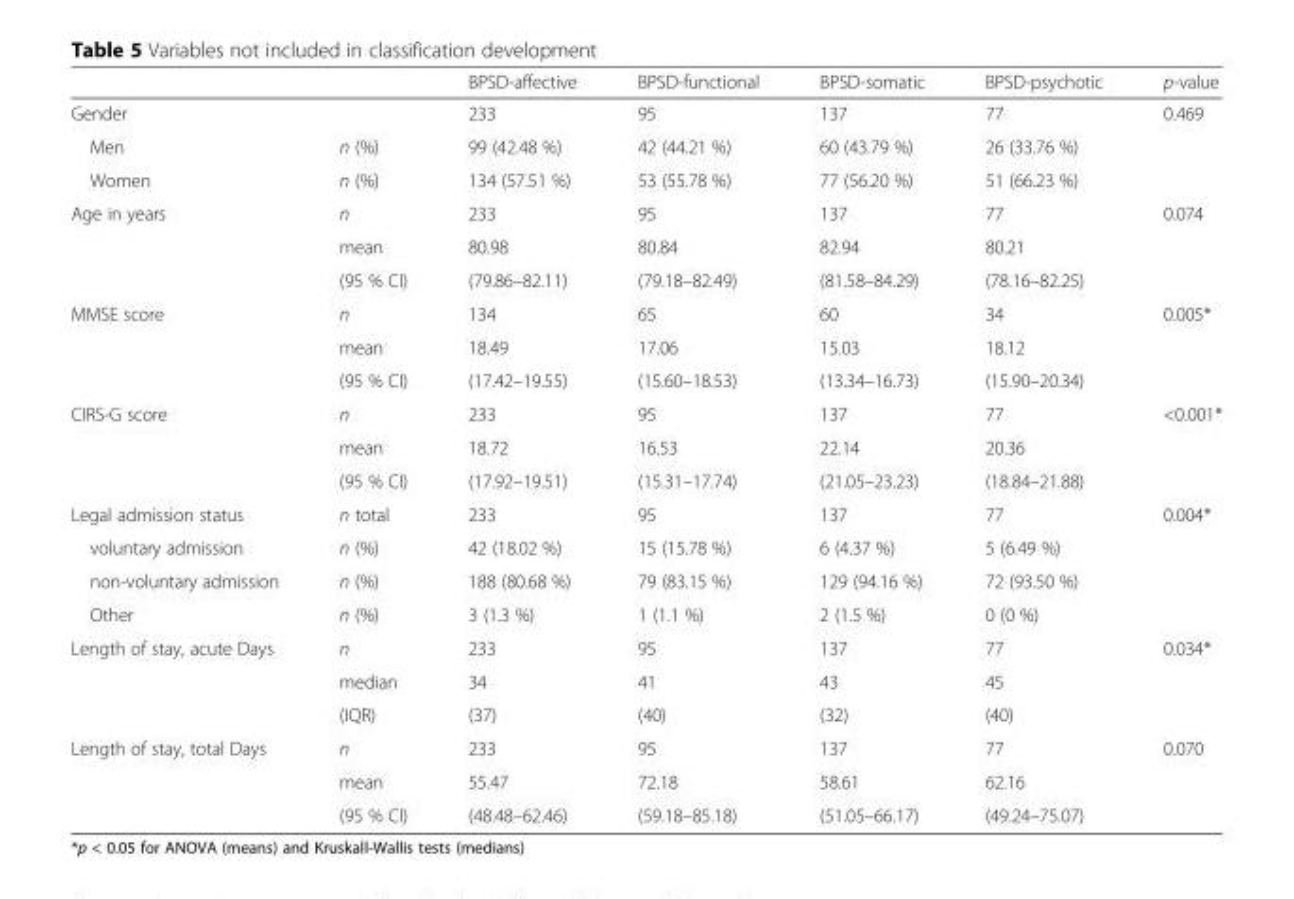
<table><thead><tr><td></td><td></td><td>BPSD-affective</td><td>BPSD-functional</td><td>BPSD-somatic</td><td>BPSD-psychotic</td><td>p-value</td></tr></thead><tbody><tr><td>Gender</td><td></td><td>233</td><td>95</td><td>137</td><td>77</td><td>0.469</td></tr><tr><td>Men</td><td>n (%)</td><td>99 (42.48 %)</td><td>42 (44.21 %)</td><td>60 (43.79 %)</td><td>26 (33.76 %)</td><td></td></tr><tr><td>Women</td><td>n (%)</td><td>134 (57.51 %)</td><td>53 (55.78 %)</td><td>77 (56.20 %)</td><td>51 (66.23 %)</td><td></td></tr><tr><td rowspan="3">Age in years</td><td>n</td><td>233</td><td>95</td><td>137</td><td>77</td><td rowspan="3">0.074</td></tr><tr><td>mean</td><td>80.98</td><td>80.84</td><td>82.94</td><td>80.21</td></tr><tr><td>(95 % CI)</td><td>(79.86–82.11)</td><td>(79.18–82.49)</td><td>(81.58–84.29)</td><td>(78.16–82.25)</td></tr><tr><td rowspan="3">MMSE score</td><td>n</td><td>134</td><td>65</td><td>60</td><td>34</td><td rowspan="3">0.005*</td></tr><tr><td>mean</td><td>18.49</td><td>17.06</td><td>15.03</td><td>18.12</td></tr><tr><td>(95 % CI)</td><td>(17.42–19.55)</td><td>(15.60–18.53)</td><td>(13.34–16.73)</td><td>(15.90–20.34)</td></tr><tr><td rowspan="3">CIRS-G score</td><td>n</td><td>233</td><td>95</td><td>137</td><td>77</td><td rowspan="3">&lt;0.001*</td></tr><tr><td>mean</td><td>18.72</td><td>16.53</td><td>22.14</td><td>20.36</td></tr><tr><td>(95 % CI)</td><td>(17.92–19.51)</td><td>(15.31–17.74)</td><td>(21.05–23.23)</td><td>(18.84–21.88)</td></tr><tr><td>Legal admission status</td><td>n total</td><td>233</td><td>95</td><td>137</td><td>77</td><td>0.004*</td></tr><tr><td>voluntary admission</td><td>n (%)</td><td>42 (18.02 %)</td><td>15 (15.78 %)</td><td>6 (4.37 %)</td><td>5 (6.49 %)</td><td></td></tr><tr><td>non-voluntary admission</td><td>n (%)</td><td>188 (80.68 %)</td><td>79 (83.15 %)</td><td>129 (94.16 %)</td><td>72 (93.50 %)</td><td></td></tr><tr><td>Other</td><td>n (%)</td><td>3 (1.3 %)</td><td>1 (1.1 %)</td><td>2 (1.5 %)</td><td>0 (0 %)</td><td></td></tr><tr><td rowspan="3">Length of stay, acute Days</td><td>n</td><td>233</td><td>95</td><td>137</td><td>77</td><td rowspan="3">0.034*</td></tr><tr><td>median</td><td>34</td><td>41</td><td>43</td><td>45</td></tr><tr><td>(IQR)</td><td>(37)</td><td>(40)</td><td>(32)</td><td>(40)</td></tr><tr><td rowspan="3">Length of stay, total Days</td><td>n</td><td>233</td><td>95</td><td>137</td><td>77</td><td rowspan="3">0.070</td></tr><tr><td>mean</td><td>55.47</td><td>72.18</td><td>58.61</td><td>62.16</td></tr><tr><td>(95 % CI)</td><td>(48.48–62.46)</td><td>(59.18–85.18)</td><td>(51.05–66.17)</td><td>(49.24–75.07)</td></tr></tbody></table>